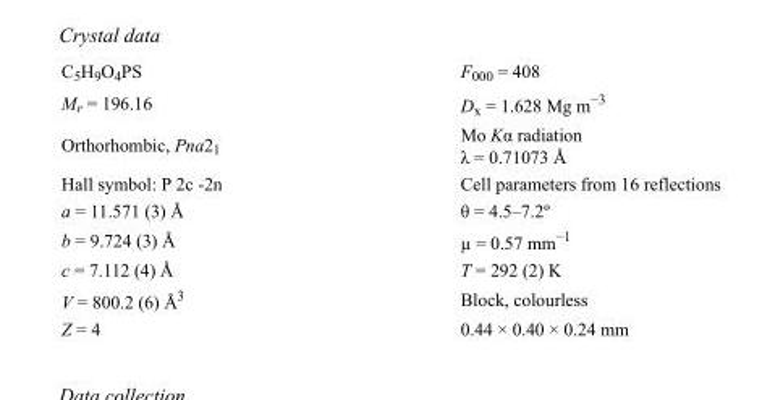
<table><tbody><tr><td>C<sub>5</sub>H<sub>9</sub>O<sub>4</sub>PS</td><td>F000 = 408</td></tr><tr><td>M<sub>r</sub> = 196.16</td><td>D<sub>x</sub> = 1.628 Mg m<sup>−3</sup></td></tr><tr><td>Orthorhombic, Pna2<sub>1</sub></td><td>Mo Kα radiation λ = 0.71073 Å</td></tr><tr><td>Hall symbol: P 2c -2n</td><td>Cell parameters from 16 reflections</td></tr><tr><td>a = 11.571 (3) Å</td><td>θ = 4.5–7.2º</td></tr><tr><td>b = 9.724 (3) Å</td><td>µ = 0.57 mm<sup>−1</sup></td></tr><tr><td>c = 7.112 (4) Å</td><td>T = 292 (2) K</td></tr><tr><td>V = 800.2 (6) Å<sup>3</sup></td><td>Block, colourless</td></tr><tr><td>Z = 4</td><td>0.44 × 0.40 × 0.24 mm</td></tr></tbody></table>